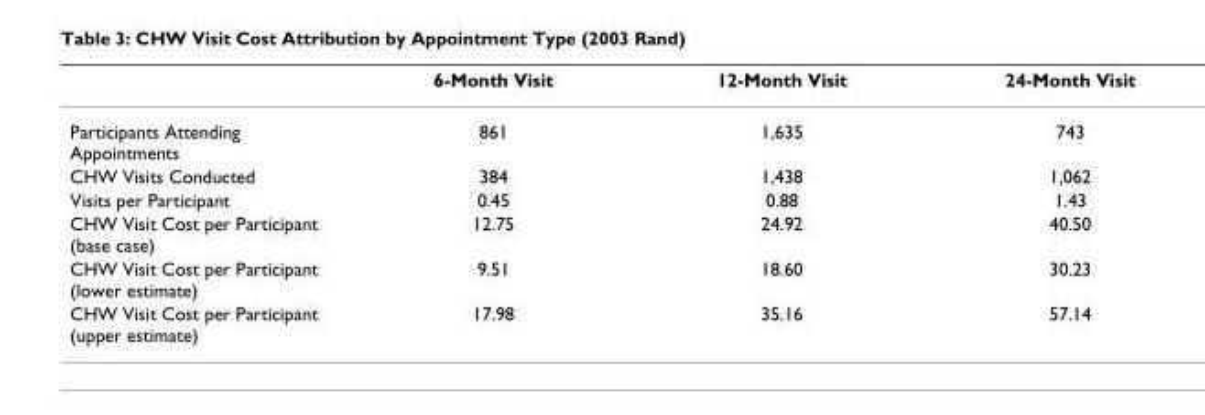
<table><thead><tr><td></td><td>6-Month Visit</td><td>12-Month Visit</td><td>24-Month Visit</td></tr></thead><tbody><tr><td>Participants Attending Appointments</td><td>861</td><td>1,635</td><td>743</td></tr><tr><td>CHW Visits Conducted</td><td>384</td><td>1,438</td><td>1,062</td></tr><tr><td>Visits per Participant</td><td>0.45</td><td>0.88</td><td>1.43</td></tr><tr><td>CHW Visit Cost per Participant (base case)</td><td>12.75</td><td>24.92</td><td>40.50</td></tr><tr><td>CHW Visit Cost per Participant (lower estimate)</td><td>9.51</td><td>18.60</td><td>30.23</td></tr><tr><td>CHW Visit Cost per Participant (upper estimate)</td><td>17.98</td><td>35.16</td><td>57.14</td></tr></tbody></table>